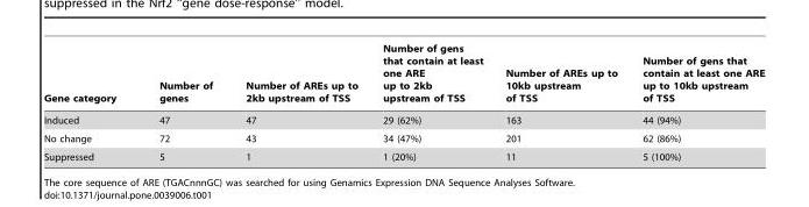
<table><thead><tr><td>Gene category</td><td>Number of genes</td><td>Number of AREs up to 2kb upstream of TSS</td><td>Number of gens that contain at least one ARE up to 2kb upstream of TSS</td><td>Number of AREs up to 10kb upstream of TSS</td><td>Number of gens that contain at least one ARE up to 10kb upstream of TSS</td></tr></thead><tbody><tr><td>Induced</td><td>47</td><td>47</td><td>29 (62%)</td><td>163</td><td>44 (94%)</td></tr><tr><td>No change</td><td>72</td><td>43</td><td>34 (47%)</td><td>201</td><td>62 (86%)</td></tr><tr><td>Suppressed</td><td>5</td><td>1</td><td>1 (20%)</td><td>11</td><td>5 (100%)</td></tr></tbody></table>